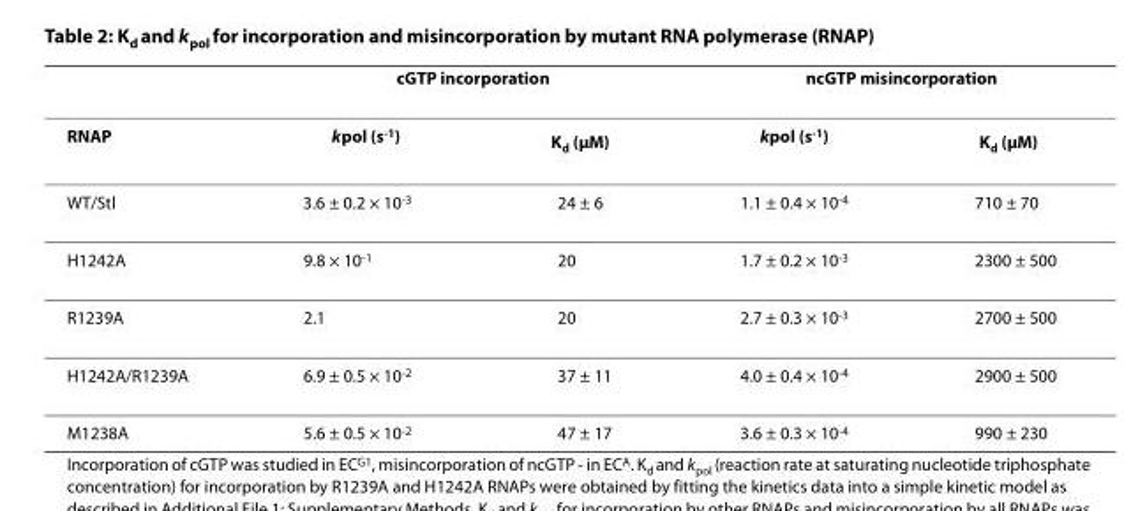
<table><thead><tr><td rowspan="2">RNAP</td><td colspan="2">cGTP incorporation</td><td colspan="2">ncGTP misincorporation</td></tr><tr><td>k<sub>pol</sub> (s<sup>-1</sup>)</td><td>K<sub>d</sub> (μM)</td><td>k<sub>pol</sub> (s<sup>-1</sup>)</td><td>K<sub>d</sub> (μM)</td></tr></thead><tbody><tr><td>WT/Stl</td><td>3.6 ± 0.2 × 10<sup>-3</sup></td><td>24 ± 6</td><td>1.1 ± 0.4 × 10<sup>-4</sup></td><td>710 ± 70</td></tr><tr><td>H1242A</td><td>9.8 × 10<sup>-1</sup></td><td>20</td><td>1.7 ± 0.2 × 10<sup>-3</sup></td><td>2300 ± 500</td></tr><tr><td>R1239A</td><td>2.1</td><td>20</td><td>2.7 ± 0.3 × 10<sup>-3</sup></td><td>2700 ± 500</td></tr><tr><td>H1242A/R1239A</td><td>6.9 ± 0.5 × 10<sup>-2</sup></td><td>37 ± 11</td><td>4.0 ± 0.4 × 10<sup>-4</sup></td><td>2900 ± 500</td></tr><tr><td>M1238A</td><td>5.6 ± 0.5 × 10<sup>-2</sup></td><td>47 ± 17</td><td>3.6 ± 0.3 × 10<sup>-4</sup></td><td>990 ± 230</td></tr></tbody></table>